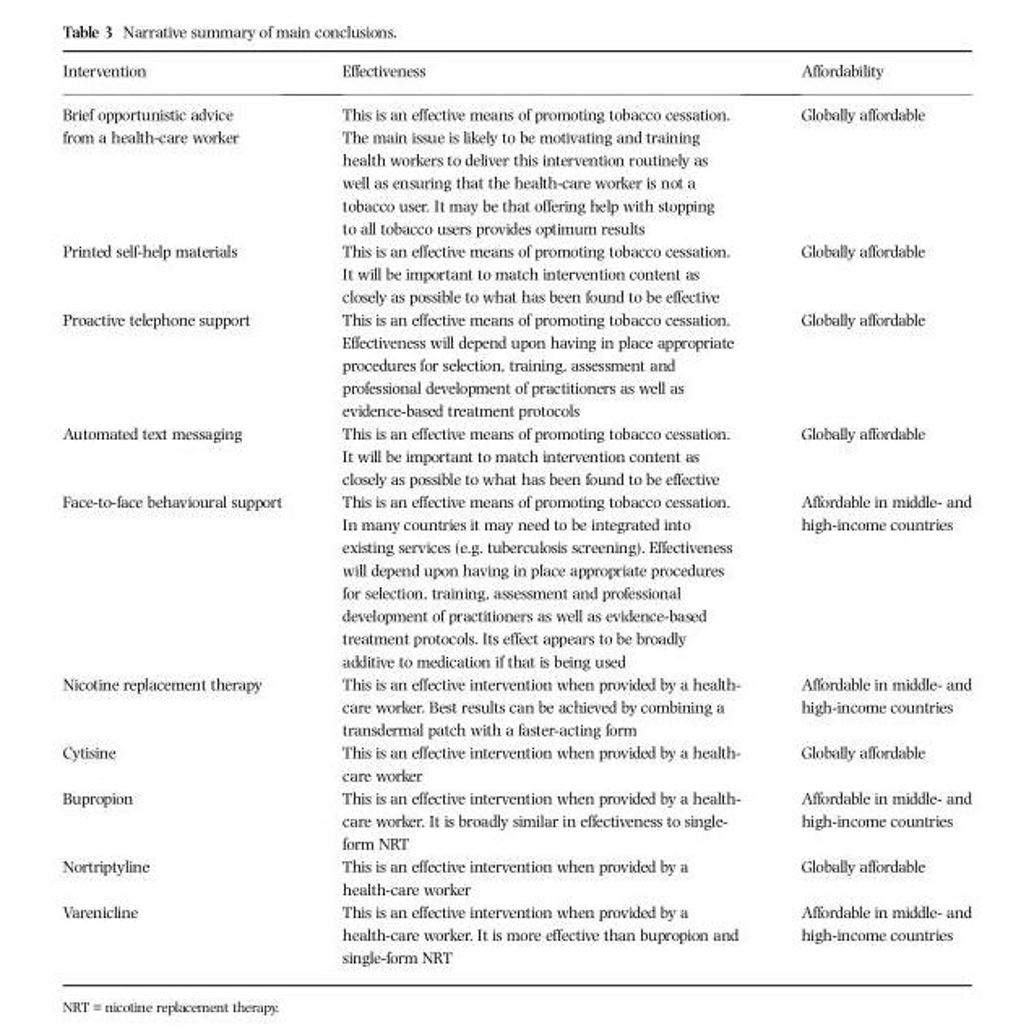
<table><thead><tr><td>Intervention</td><td>Effectiveness</td><td>Affordability</td></tr></thead><tbody><tr><td>Brief opportunistic advice from a health-care worker</td><td>This is an effective means of promoting tobacco cessation. The main issue is likely to be motivating and training health workers to deliver this intervention routinely as well as ensuring that the health-care worker is not a tobacco user. It may be that offering help with stopping to all tobacco users provides optimum results</td><td>Globally affordable</td></tr><tr><td>Printed self-help materials</td><td>This is an effective means of promoting tobacco cessation. It will be important to match intervention content as closely as possible to what has been found to be effective</td><td>Globally affordable</td></tr><tr><td>Proactive telephone support</td><td>This is an effective means of promoting tobacco cessation. Effectiveness will depend upon having in place appropriate procedures for selection, training, assessment and professional development of practitioners as well as evidence-based treatment protocols</td><td>Globally affordable</td></tr><tr><td>Automated text messaging</td><td>This is an effective means of promoting tobacco cessation. It will be important to match intervention content as closely as possible to what has been found to be effective</td><td>Globally affordable</td></tr><tr><td>Face-to-face behavioural support</td><td>This is an effective means of promoting tobacco cessation. In many countries it may need to be integrated into existing services (e.g. tuberculosis screening). Effectiveness will depend upon having in place appropriate procedures for selection, training, assessment and professional development of practitioners as well as evidence-based treatment protocols. Its effect appears to be broadly additive to medication if that is being used</td><td>Affordable in middle- and high-income countries</td></tr><tr><td>Nicotine replacement therapy</td><td>This is an effective intervention when provided by a health- care worker. Best results can be achieved by combining a transdermal patch with a faster-acting form</td><td>Affordable in middle- and high-income countries</td></tr><tr><td>Cytisine</td><td>This is an effective intervention when provided by a health- care worker</td><td>Globally affordable</td></tr><tr><td>Bupropion</td><td>This is an effective intervention when provided by a health- care worker. It is broadly similar in effectiveness to single- form NRT</td><td>Affordable in middle- and high-income countries</td></tr><tr><td>Nortriptyline</td><td>This is an effective intervention when provided by a health-care worker</td><td>Globally affordable</td></tr><tr><td>Varenicline</td><td>This is an effective intervention when provided by a health-care worker. It is more effective than bupropion and single-form NRT</td><td>Affordable in middle- and high-income countries</td></tr></tbody></table>